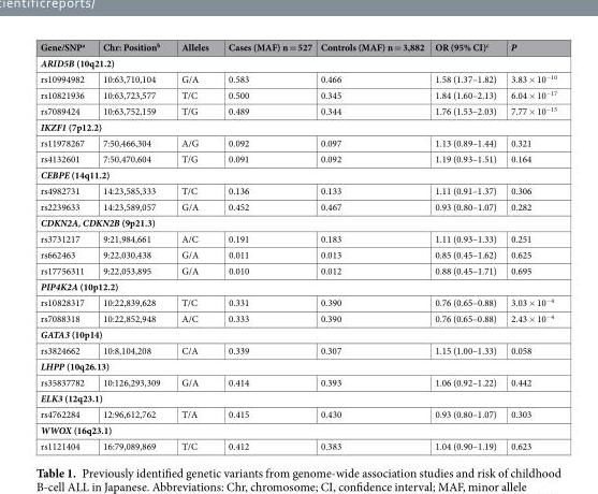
<table><thead><tr><td>Gene/SNP<sup>a</sup></td><td>Chr: Position<sup>b</sup></td><td>Alleles</td><td>Cases (MAF) n = 527</td><td>Controls (MAF) n = 3,882</td><td>OR (95% CI)<sup>c</sup></td><td>P</td></tr></thead><tbody><tr><td colspan="7">ARID5B (10q21.2)</td></tr><tr><td>rs10994982</td><td>10:63,710,104</td><td>G/A</td><td>0.583</td><td>0.466</td><td>1.58 (1.37–1.82)</td><td>3.83 × 10<sup>−10</sup></td></tr><tr><td>rs10821936</td><td>10:63,723,577</td><td>T/C</td><td>0.500</td><td>0.345</td><td>1.84 (1.60–2.13)</td><td>6.04 × 10<sup>−17</sup></td></tr><tr><td>rs7089424</td><td>10:63,752,159</td><td>T/G</td><td>0.489</td><td>0.344</td><td>1.76 (1.53–2.03)</td><td>7.77 × 10<sup>−15</sup></td></tr><tr><td colspan="7">IKZF1 (7p12.2)</td></tr><tr><td>rs11978267</td><td>7:50,466,304</td><td>A/G</td><td>0.092</td><td>0.097</td><td>1.13 (0.89–1.44)</td><td>0.321</td></tr><tr><td>rs4132601</td><td>7:50,470,604</td><td>T/G</td><td>0.091</td><td>0.092</td><td>1.19 (0.93–1.51)</td><td>0.164</td></tr><tr><td colspan="7">CEBPE (14q11.2)</td></tr><tr><td>rs4982731</td><td>14:23,585,333</td><td>T/C</td><td>0.136</td><td>0.133</td><td>1.11 (0.91–1.37)</td><td>0.306</td></tr><tr><td>rs2239633</td><td>14:23,589,057</td><td>G/A</td><td>0.452</td><td>0.467</td><td>0.93 (0.80–1.07)</td><td>0.282</td></tr><tr><td colspan="7">CDKN2A, CDKN2B (9p21.3)</td></tr><tr><td>rs3731217</td><td>9:21,984,661</td><td>A/C</td><td>0.191</td><td>0.183</td><td>1.11 (0.93–1.33)</td><td>0.251</td></tr><tr><td>rs662463</td><td>9:22,030,438</td><td>G/A</td><td>0.011</td><td>0.013</td><td>0.85 (0.45–1.62)</td><td>0.625</td></tr><tr><td>rs17756311</td><td>9:22,053,895</td><td>G/A</td><td>0.010</td><td>0.012</td><td>0.88 (0.45–1.71)</td><td>0.695</td></tr><tr><td colspan="7">PIP4K2A (10p12.2)</td></tr><tr><td>rs10828317</td><td>10:22,839,628</td><td>T/C</td><td>0.331</td><td>0.390</td><td>0.76 (0.65–0.88)</td><td>3.03 × 10<sup>−4</sup></td></tr><tr><td>rs7088318</td><td>10:22,852,948</td><td>A/C</td><td>0.333</td><td>0.390</td><td>0.76 (0.65–0.88)</td><td>2.43 × 10<sup>−4</sup></td></tr><tr><td colspan="7">GATA3 (10p14)</td></tr><tr><td>rs3824662</td><td>10:8,104,208</td><td>C/A</td><td>0.339</td><td>0.307</td><td>1.15 (1.00–1.33)</td><td>0.058</td></tr><tr><td colspan="7">LHPP (10q26.13)</td></tr><tr><td>rs35837782</td><td>10:126,293,309</td><td>G/A</td><td>0.414</td><td>0.393</td><td>1.06 (0.92–1.22)</td><td>0.442</td></tr><tr><td colspan="7">ELK3 (12q23.1)</td></tr><tr><td>rs4762284</td><td>12:96,612,762</td><td>T/A</td><td>0.415</td><td>0.430</td><td>0.93 (0.80–1.07)</td><td>0.303</td></tr><tr><td colspan="7">WWOX (16q23.1)</td></tr><tr><td>rs1121404</td><td>16:79,089,869</td><td>T/C</td><td>0.412</td><td>0.383</td><td>1.04 (0.90–1.19)</td><td>0.623</td></tr></tbody></table>